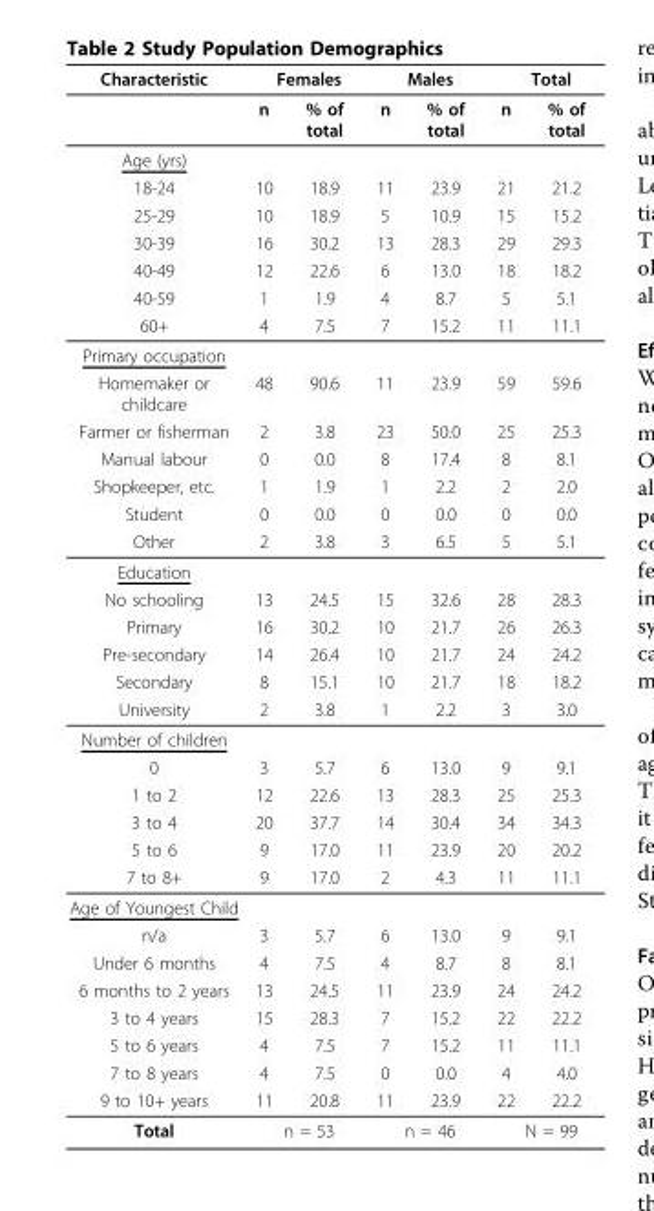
<table><thead><tr><td rowspan="2">Characteristic</td><td colspan="2">Females</td><td colspan="2">Males</td><td colspan="2">Total</td></tr><tr><td>n</td><td>% of total</td><td>n</td><td>% of total</td><td>n</td><td>% of total</td></tr></thead><tbody><tr><td colspan="7">Age (yrs)</td></tr><tr><td>18-24</td><td>10</td><td>18.9</td><td>11</td><td>23.9</td><td>21</td><td>21.2</td></tr><tr><td>25-29</td><td>10</td><td>18.9</td><td>5</td><td>10.9</td><td>15</td><td>15.2</td></tr><tr><td>30-39</td><td>16</td><td>30.2</td><td>13</td><td>28.3</td><td>29</td><td>29.3</td></tr><tr><td>40-49</td><td>12</td><td>22.6</td><td>6</td><td>13.0</td><td>18</td><td>18.2</td></tr><tr><td>40-59</td><td>1</td><td>1.9</td><td>4</td><td>8.7</td><td>5</td><td>5.1</td></tr><tr><td>60+</td><td>4</td><td>7.5</td><td>7</td><td>15.2</td><td>11</td><td>11.1</td></tr><tr><td colspan="7">Primary occupation</td></tr><tr><td>Homemaker or childcare</td><td>48</td><td>90.6</td><td>11</td><td>23.9</td><td>59</td><td>59.6</td></tr><tr><td>Farmer or fisherman</td><td>2</td><td>3.8</td><td>23</td><td>50.0</td><td>25</td><td>25.3</td></tr><tr><td>Manual labour</td><td>0</td><td>0.0</td><td>8</td><td>17.4</td><td>8</td><td>8.1</td></tr><tr><td>Shopkeeper, etc.</td><td>1</td><td>1.9</td><td>1</td><td>2.2</td><td>2</td><td>2.0</td></tr><tr><td>Student</td><td>0</td><td>0.0</td><td>0</td><td>0.0</td><td>0</td><td>0.0</td></tr><tr><td>Other</td><td>2</td><td>3.8</td><td>3</td><td>6.5</td><td>5</td><td>5.1</td></tr><tr><td colspan="7">Education</td></tr><tr><td>No schooling</td><td>13</td><td>24.5</td><td>15</td><td>32.6</td><td>28</td><td>28.3</td></tr><tr><td>Primary</td><td>16</td><td>30.2</td><td>10</td><td>21.7</td><td>26</td><td>26.3</td></tr><tr><td>Pre-secondary</td><td>14</td><td>26.4</td><td>10</td><td>21.7</td><td>24</td><td>24.2</td></tr><tr><td>Secondary</td><td>8</td><td>15.1</td><td>10</td><td>21.7</td><td>18</td><td>18.2</td></tr><tr><td>University</td><td>2</td><td>3.8</td><td>1</td><td>2.2</td><td>3</td><td>3.0</td></tr><tr><td colspan="7">Number of children</td></tr><tr><td>0</td><td>3</td><td>5.7</td><td>6</td><td>13.0</td><td>9</td><td>9.1</td></tr><tr><td>1 to 2</td><td>12</td><td>22.6</td><td>13</td><td>28.3</td><td>25</td><td>25.3</td></tr><tr><td>3 to 4</td><td>20</td><td>37.7</td><td>14</td><td>30.4</td><td>34</td><td>34.3</td></tr><tr><td>5 to 6</td><td>9</td><td>17.0</td><td>11</td><td>23.9</td><td>20</td><td>20.2</td></tr><tr><td>7 to 8+</td><td>9</td><td>17.0</td><td>2</td><td>4.3</td><td>11</td><td>11.1</td></tr><tr><td colspan="7">Age of Youngest Child</td></tr><tr><td>n/a</td><td>3</td><td>5.7</td><td>6</td><td>13.0</td><td>9</td><td>9.1</td></tr><tr><td>Under 6 months</td><td>4</td><td>7.5</td><td>4</td><td>8.7</td><td>8</td><td>8.1</td></tr><tr><td>6 months to 2 years</td><td>13</td><td>24.5</td><td>11</td><td>23.9</td><td>24</td><td>24.2</td></tr><tr><td>3 to 4 years</td><td>15</td><td>28.3</td><td>7</td><td>15.2</td><td>22</td><td>22.2</td></tr><tr><td>5 to 6 years</td><td>4</td><td>7.5</td><td>7</td><td>15.2</td><td>11</td><td>11.1</td></tr><tr><td>7 to 8 years</td><td>4</td><td>7.5</td><td>0</td><td>0.0</td><td>4</td><td>4.0</td></tr><tr><td>9 to 10+ years</td><td>11</td><td>20.8</td><td>11</td><td>23.9</td><td>22</td><td>22.2</td></tr><tr><td>Total</td><td colspan="2">n = 53</td><td colspan="2">n = 46</td><td colspan="2">N = 99</td></tr></tbody></table>